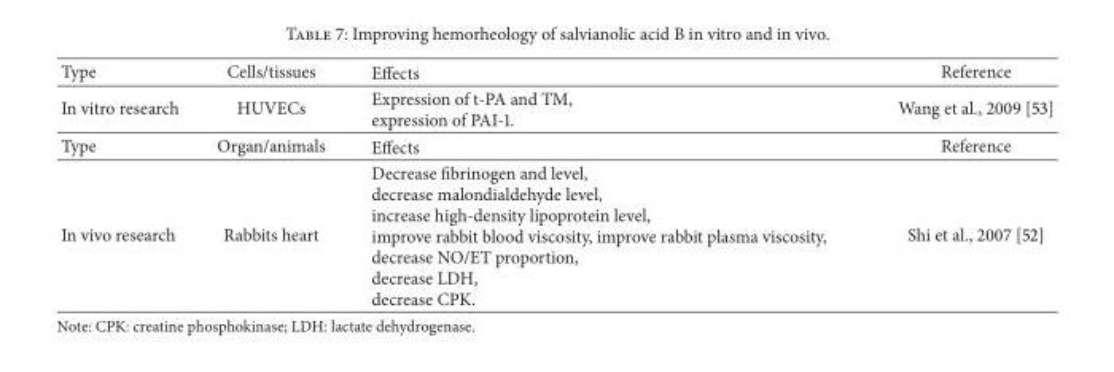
<table><thead><tr><td>Type</td><td>Cells/tissues</td><td>Effects</td><td>Reference</td></tr></thead><tbody><tr><td>In vitro research</td><td>HUVECs</td><td>Expression of t-PA and TM, expression of PAI-1.</td><td>Wang et al., 2009 [53]</td></tr><tr><td>Type</td><td>Organ/animals</td><td>Effects</td><td>Reference</td></tr><tr><td>In vivo research</td><td>Rabbits heart</td><td>Decrease fibrinogen and level, decrease malondialdehyde level, increase high-density lipoprotein level, improve rabbit blood viscosity, improve rabbit plasma viscosity, decrease NO/ET proportion, decrease LDH, decrease CPK.</td><td>Shi et al., 2007 [52]</td></tr></tbody></table>